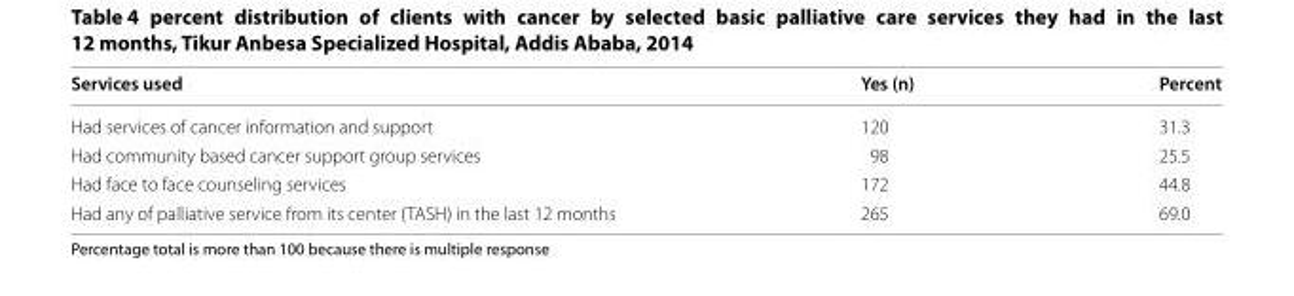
<table><thead><tr><td>Services used</td><td>Yes (n)</td><td>Percent</td></tr></thead><tbody><tr><td>Had services of cancer information and support</td><td>120</td><td>31.3</td></tr><tr><td>Had community based cancer support group services</td><td>98</td><td>25.5</td></tr><tr><td>Had face to face counseling services</td><td>172</td><td>44.8</td></tr><tr><td>Had any of palliative service from its center (TASH) in the last 12 months</td><td>265</td><td>69.0</td></tr></tbody></table>